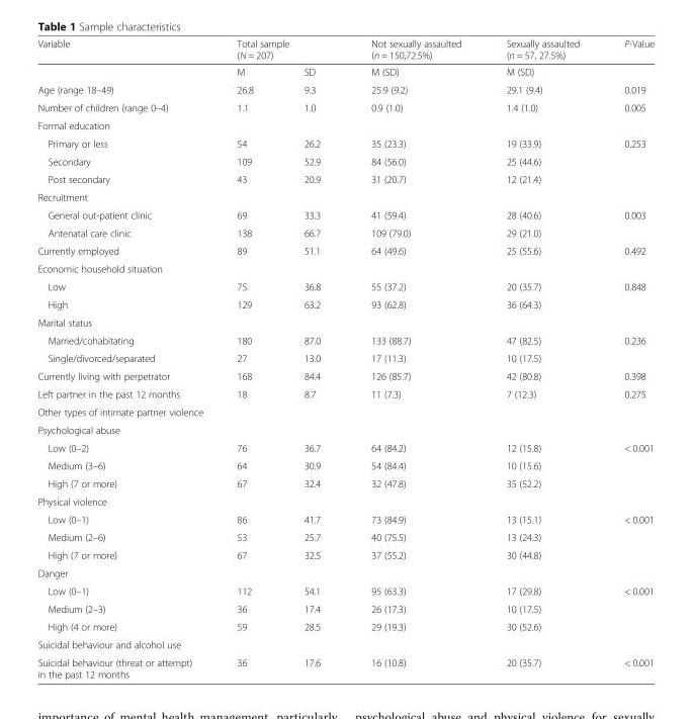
<table><thead><tr><td rowspan="2">Variable</td><td colspan="2">Total sample (N = 207)</td><td rowspan="2">Not sexually assaulted (n = 150,72.5%) M (SD)</td><td rowspan="2">Sexually assaulted (n = 57, 27.5%) M (SD)</td><td rowspan="2">P-Value</td></tr><tr><td>M</td><td>SD</td></tr></thead><tbody><tr><td>Age (range 18–49)</td><td>26.8</td><td>9.3</td><td>25.9 (9.2)</td><td>29.1 (9.4)</td><td>0.019</td></tr><tr><td>Number of children (range 0–4)</td><td>1.1</td><td>1.0</td><td>0.9 (1.0)</td><td>1.4 (1.0)</td><td>0.005</td></tr><tr><td colspan="6">Formal education</td></tr><tr><td>Primary or less</td><td>54</td><td>26.2</td><td>35 (23.3)</td><td>19 (33.9)</td><td>0.253</td></tr><tr><td>Secondary</td><td>109</td><td>52.9</td><td>84 (56.0)</td><td>25 (44.6)</td><td></td></tr><tr><td>Post secondary</td><td>43</td><td>20.9</td><td>31 (20.7)</td><td>12 (21.4)</td><td></td></tr><tr><td colspan="6">Recruitment</td></tr><tr><td>General out-patient clinic</td><td>69</td><td>33.3</td><td>41 (59.4)</td><td>28 (40.6)</td><td>0.003</td></tr><tr><td>Antenatal care clinic</td><td>138</td><td>66.7</td><td>109 (79.0)</td><td>29 (21.0)</td><td></td></tr><tr><td>Currently employed</td><td>89</td><td>51.1</td><td>64 (49.6)</td><td>25 (55.6)</td><td>0.492</td></tr><tr><td colspan="6">Economic household situation</td></tr><tr><td>Low</td><td>75</td><td>36.8</td><td>55 (37.2)</td><td>20 (35.7)</td><td>0.848</td></tr><tr><td>High</td><td>129</td><td>63.2</td><td>93 (62.8)</td><td>36 (64.3)</td><td></td></tr><tr><td colspan="6">Marital status</td></tr><tr><td>Married/cohabitating</td><td>180</td><td>87.0</td><td>133 (88.7)</td><td>47 (82.5)</td><td>0.236</td></tr><tr><td>Single/divorced/separated</td><td>27</td><td>13.0</td><td>17 (11.3)</td><td>10 (17.5)</td><td></td></tr><tr><td>Currently living with perpetrator</td><td>168</td><td>84.4</td><td>126 (85.7)</td><td>42 (80.8)</td><td>0.398</td></tr><tr><td>Left partner in the past 12 months</td><td>18</td><td>8.7</td><td>11 (7.3)</td><td>7 (12.3)</td><td>0.275</td></tr><tr><td colspan="6">Other types of intimate partner violence</td></tr><tr><td colspan="6">Psychological abuse</td></tr><tr><td>Low (0–2)</td><td>76</td><td>36.7</td><td>64 (84.2)</td><td>12 (15.8)</td><td>&lt; 0.001</td></tr><tr><td>Medium (3–6)</td><td>64</td><td>30.9</td><td>54 (84.4)</td><td>10 (15.6)</td><td></td></tr><tr><td>High (7 or more)</td><td>67</td><td>32.4</td><td>32 (47.8)</td><td>35 (52.2)</td><td></td></tr><tr><td colspan="6">Physical violence</td></tr><tr><td>Low (0–1)</td><td>86</td><td>41.7</td><td>73 (84.9)</td><td>13 (15.1)</td><td>&lt; 0.001</td></tr><tr><td>Medium (2–6)</td><td>53</td><td>25.7</td><td>40 (75.5)</td><td>13 (24.3)</td><td></td></tr><tr><td>High (7 or more)</td><td>67</td><td>32.5</td><td>37 (55.2)</td><td>30 (44.8)</td><td></td></tr><tr><td colspan="6">Danger</td></tr><tr><td>Low (0–1)</td><td>112</td><td>54.1</td><td>95 (63.3)</td><td>17 (29.8)</td><td>&lt; 0.001</td></tr><tr><td>Medium (2–3)</td><td>36</td><td>17.4</td><td>26 (17.3)</td><td>10 (17.5)</td><td></td></tr><tr><td>High (4 or more)</td><td>59</td><td>28.5</td><td>29 (19.3)</td><td>30 (52.6)</td><td></td></tr><tr><td colspan="6">Suicidal behaviour and alcohol use</td></tr><tr><td>Suicidal behaviour (threat or attempt) in the past 12 months</td><td>36</td><td>17.6</td><td>16 (10.8)</td><td>20 (35.7)</td><td>&lt; 0.001</td></tr></tbody></table>